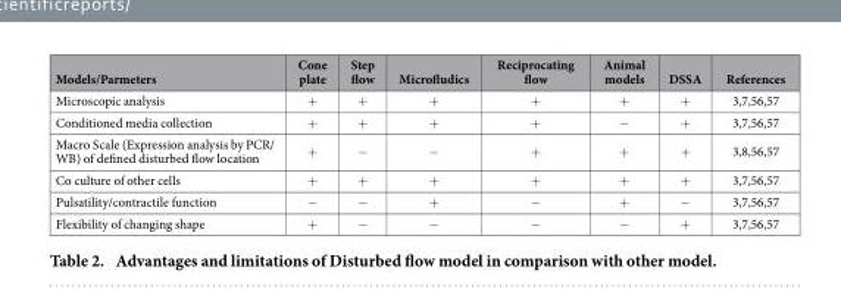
<table><thead><tr><td>Models/Parmeters</td><td>Cone plate</td><td>Step flow</td><td>Microfludics</td><td>Reciprocating flow</td><td>Animal models</td><td>DSSA</td><td>References</td></tr></thead><tbody><tr><td>Microscopic analysis</td><td>+</td><td>+</td><td>+</td><td>+</td><td>+</td><td>+</td><td>3,7,56,57</td></tr><tr><td>Conditioned media collection</td><td>+</td><td>+</td><td>+</td><td>+</td><td>−</td><td>+</td><td>3,7,56,57</td></tr><tr><td>Macro Scale (Expression analysis by PCR/ WB) of defined disturbed flow location</td><td>+</td><td>−</td><td>−</td><td>+</td><td>+</td><td>+</td><td>3,8,56,57</td></tr><tr><td>Co culture of other cells</td><td>+</td><td>+</td><td>+</td><td>+</td><td>+</td><td>+</td><td>3,7,56,57</td></tr><tr><td>Pulsatility/contractile function</td><td>−</td><td>−</td><td>+</td><td>−</td><td>+</td><td>−</td><td>3,7,56,57</td></tr><tr><td>Flexibility of changing shape</td><td>+</td><td>−</td><td>−</td><td>−</td><td>−</td><td>+</td><td>3,7,56,57</td></tr></tbody></table>